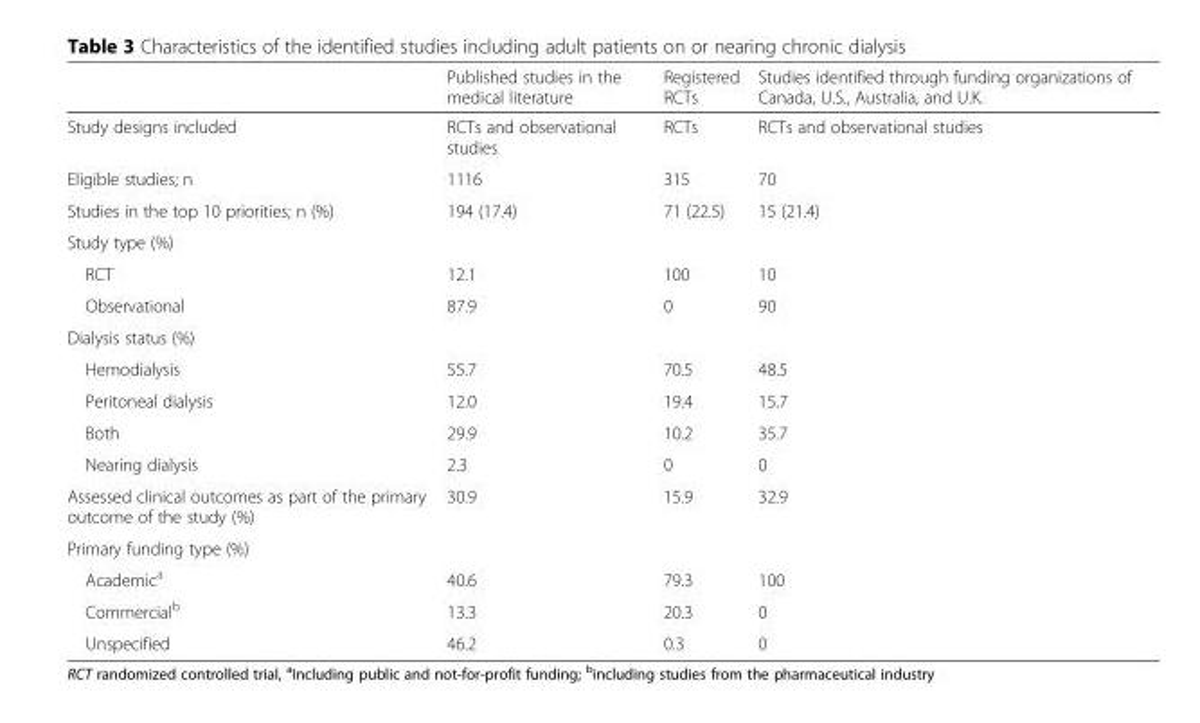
<table><thead><tr><td></td><td>Published studies in the medical literature</td><td>Registered RCTs</td><td>Studies identified through funding organizations of Canada, U.S., Australia, and U.K.</td></tr></thead><tbody><tr><td>Study designs included</td><td>RCTs and observational studies</td><td>RCTs</td><td>RCTs and observational studies</td></tr><tr><td>Eligible studies; n</td><td>1116</td><td>315</td><td>70</td></tr><tr><td>Studies in the top 10 priorities; n (%)</td><td>194 (17.4)</td><td>71 (22.5)</td><td>15 (21.4)</td></tr><tr><td colspan="4">Study type (%)</td></tr><tr><td>RCT</td><td>12.1</td><td>100</td><td>10</td></tr><tr><td>Observational</td><td>87.9</td><td>0</td><td>90</td></tr><tr><td colspan="4">Dialysis status (%)</td></tr><tr><td>Hemodialysis</td><td>55.7</td><td>70.5</td><td>48.5</td></tr><tr><td>Peritoneal dialysis</td><td>12.0</td><td>19.4</td><td>15.7</td></tr><tr><td>Both</td><td>29.9</td><td>10.2</td><td>35.7</td></tr><tr><td>Nearing dialysis</td><td>2.3</td><td>0</td><td>0</td></tr><tr><td>Assessed clinical outcomes as part of the primary outcome of the study (%)</td><td>30.9</td><td>15.9</td><td>32.9</td></tr><tr><td colspan="4">Primary funding type (%)</td></tr><tr><td>Academic<sup>a</sup></td><td>40.6</td><td>79.3</td><td>100</td></tr><tr><td>Commercial<sup>b</sup></td><td>13.3</td><td>20.3</td><td>0</td></tr><tr><td>Unspecified</td><td>46.2</td><td>0.3</td><td>0</td></tr></tbody></table>